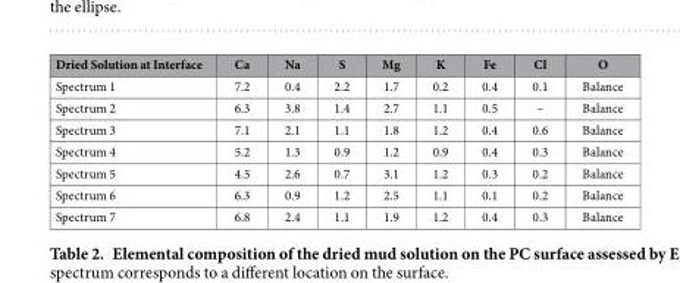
<table><thead><tr><td>Dried Solution at Interface</td><td>Ca</td><td>Na</td><td>S</td><td>Mg</td><td>K</td><td>Fe</td><td>Cl</td><td>O</td></tr></thead><tbody><tr><td>Spectrum 1</td><td>7.2</td><td>0.4</td><td>2.2</td><td>1.7</td><td>0.2</td><td>0.4</td><td>0.1</td><td>Balance</td></tr><tr><td>Spectrum 2</td><td>6.3</td><td>3.8</td><td>1.4</td><td>2.7</td><td>1.1</td><td>0.5</td><td>–</td><td>Balance</td></tr><tr><td>Spectrum 3</td><td>7.1</td><td>2.1</td><td>1.1</td><td>1.8</td><td>1.2</td><td>0.4</td><td>0.6</td><td>Balance</td></tr><tr><td>Spectrum 4</td><td>5.2</td><td>1.3</td><td>0.9</td><td>1.2</td><td>0.9</td><td>0.4</td><td>0.3</td><td>Balance</td></tr><tr><td>Spectrum 5</td><td>4.5</td><td>2.6</td><td>0.7</td><td>3.1</td><td>1.2</td><td>0.3</td><td>0.2</td><td>Balance</td></tr><tr><td>Spectrum 6</td><td>6.3</td><td>0.9</td><td>1.2</td><td>2.5</td><td>1.1</td><td>0.1</td><td>0.2</td><td>Balance</td></tr><tr><td>Spectrum 7</td><td>6.8</td><td>2.4</td><td>1.1</td><td>1.9</td><td>1.2</td><td>0.4</td><td>0.3</td><td>Balance</td></tr></tbody></table>